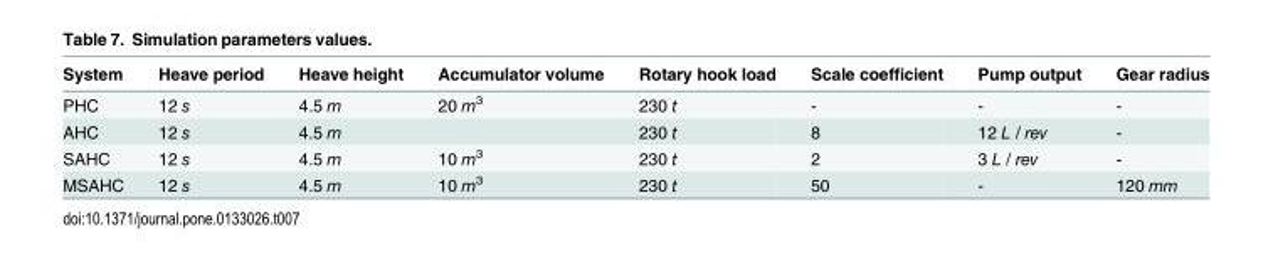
<table><thead><tr><td>System</td><td>Heave period</td><td>Heave height</td><td>Accumulator volume</td><td>Rotary hook load</td><td>Scale coefficient</td><td>Pump output</td><td>Gear radius</td></tr></thead><tbody><tr><td>PHC</td><td>12 s</td><td>4.5 m</td><td>20 m<sup>3</sup></td><td>230 t</td><td>-</td><td>-</td><td>-</td></tr><tr><td>AHC</td><td>12 s</td><td>4.5 m</td><td></td><td>230 t</td><td>8</td><td>12 L / rev</td><td>-</td></tr><tr><td>SAHC</td><td>12 s</td><td>4.5 m</td><td>10 m<sup>3</sup></td><td>230 t</td><td>2</td><td>3 L / rev</td><td>-</td></tr><tr><td>MSAHC</td><td>12 s</td><td>4.5 m</td><td>10 m<sup>3</sup></td><td>230 t</td><td>50</td><td>-</td><td>120 mm</td></tr></tbody></table>